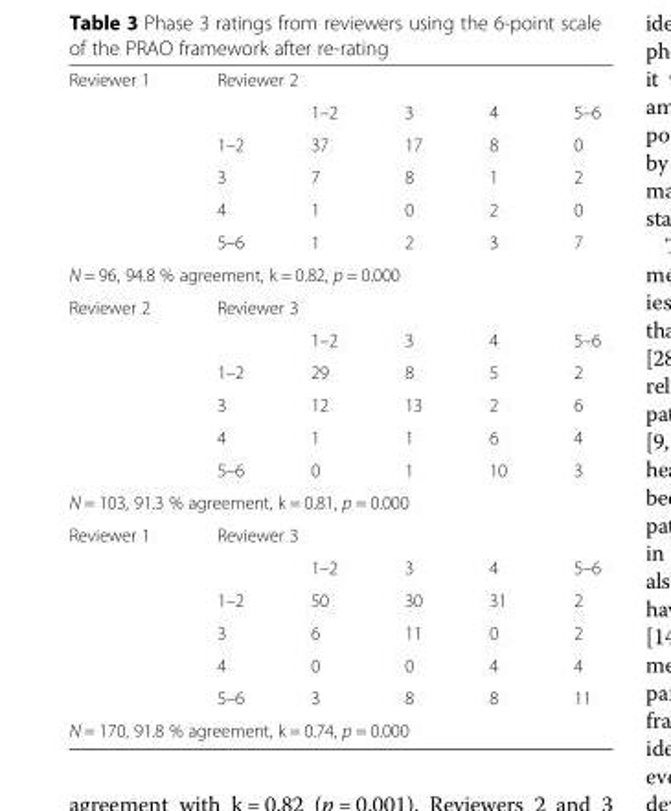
<table><tbody><tr><td rowspan="6">Reviewer 1</td><td colspan="5">Reviewer 2</td></tr><tr><td></td><td>1–2</td><td>3</td><td>4</td><td>5–6</td></tr><tr><td>1–2</td><td>37</td><td>17</td><td>8</td><td>0</td></tr><tr><td>3</td><td>7</td><td>8</td><td>1</td><td>2</td></tr><tr><td>4</td><td>1</td><td>0</td><td>2</td><td>0</td></tr><tr><td>5–6</td><td>1</td><td>2</td><td>3</td><td>7</td></tr><tr><td colspan="6">N = 96, 94.8 % agreement, k = 0.82, p = 0.000</td></tr><tr><td rowspan="6">Reviewer 2</td><td colspan="5">Reviewer 3</td></tr><tr><td></td><td>1–2</td><td>3</td><td>4</td><td>5–6</td></tr><tr><td>1–2</td><td>29</td><td>8</td><td>5</td><td>2</td></tr><tr><td>3</td><td>12</td><td>13</td><td>2</td><td>6</td></tr><tr><td>4</td><td>1</td><td>1</td><td>6</td><td>4</td></tr><tr><td>5–6</td><td>0</td><td>1</td><td>10</td><td>3</td></tr><tr><td colspan="6">N = 103, 91.3 % agreement, k = 0.81, p = 0.000</td></tr><tr><td rowspan="6">Reviewer 1</td><td colspan="5">Reviewer 3</td></tr><tr><td></td><td>1–2</td><td>3</td><td>4</td><td>5–6</td></tr><tr><td>1–2</td><td>50</td><td>30</td><td>31</td><td>2</td></tr><tr><td>3</td><td>6</td><td>11</td><td>0</td><td>2</td></tr><tr><td>4</td><td>0</td><td>0</td><td>4</td><td>4</td></tr><tr><td>5–6</td><td>3</td><td>8</td><td>8</td><td>11</td></tr><tr><td colspan="6">N = 170, 91.8 % agreement, k = 0.74, p = 0.000</td></tr></tbody></table>